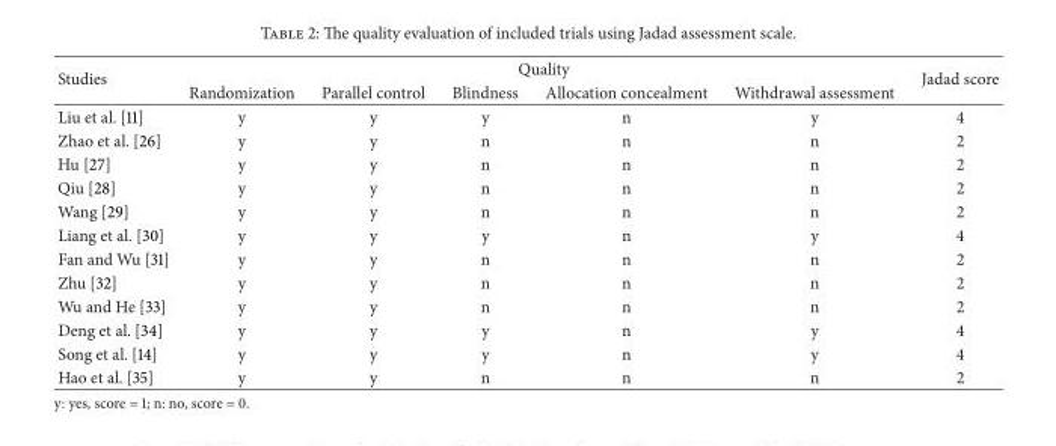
<table><thead><tr><td rowspan="2">Studies</td><td colspan="5">Quality</td><td rowspan="2">Jadad score</td></tr><tr><td>Randomization</td><td>Parallel control</td><td>Blindness</td><td>Allocation concealment</td><td>Withdrawal assessment</td></tr></thead><tbody><tr><td>Liu et al. [11]</td><td>y</td><td>y</td><td>y</td><td>n</td><td>y</td><td>4</td></tr><tr><td>Zhao et al. [26]</td><td>y</td><td>y</td><td>n</td><td>n</td><td>n</td><td>2</td></tr><tr><td>Hu [27]</td><td>y</td><td>y</td><td>n</td><td>n</td><td>n</td><td>2</td></tr><tr><td>Qiu [28]</td><td>y</td><td>y</td><td>n</td><td>n</td><td>n</td><td>2</td></tr><tr><td>Wang [29]</td><td>y</td><td>y</td><td>n</td><td>n</td><td>n</td><td>2</td></tr><tr><td>Liang et al. [30]</td><td>y</td><td>y</td><td>y</td><td>n</td><td>y</td><td>4</td></tr><tr><td>Fan and Wu [31]</td><td>y</td><td>y</td><td>n</td><td>n</td><td>n</td><td>2</td></tr><tr><td>Zhu [32]</td><td>y</td><td>y</td><td>n</td><td>n</td><td>n</td><td>2</td></tr><tr><td>Wu and He [33]</td><td>y</td><td>y</td><td>n</td><td>n</td><td>n</td><td>2</td></tr><tr><td>Deng et al. [34]</td><td>y</td><td>y</td><td>y</td><td>n</td><td>y</td><td>4</td></tr><tr><td>Song et al. [14]</td><td>y</td><td>y</td><td>y</td><td>n</td><td>y</td><td>4</td></tr><tr><td>Hao et al. [35]</td><td>y</td><td>y</td><td>n</td><td>n</td><td>n</td><td>2</td></tr></tbody></table>